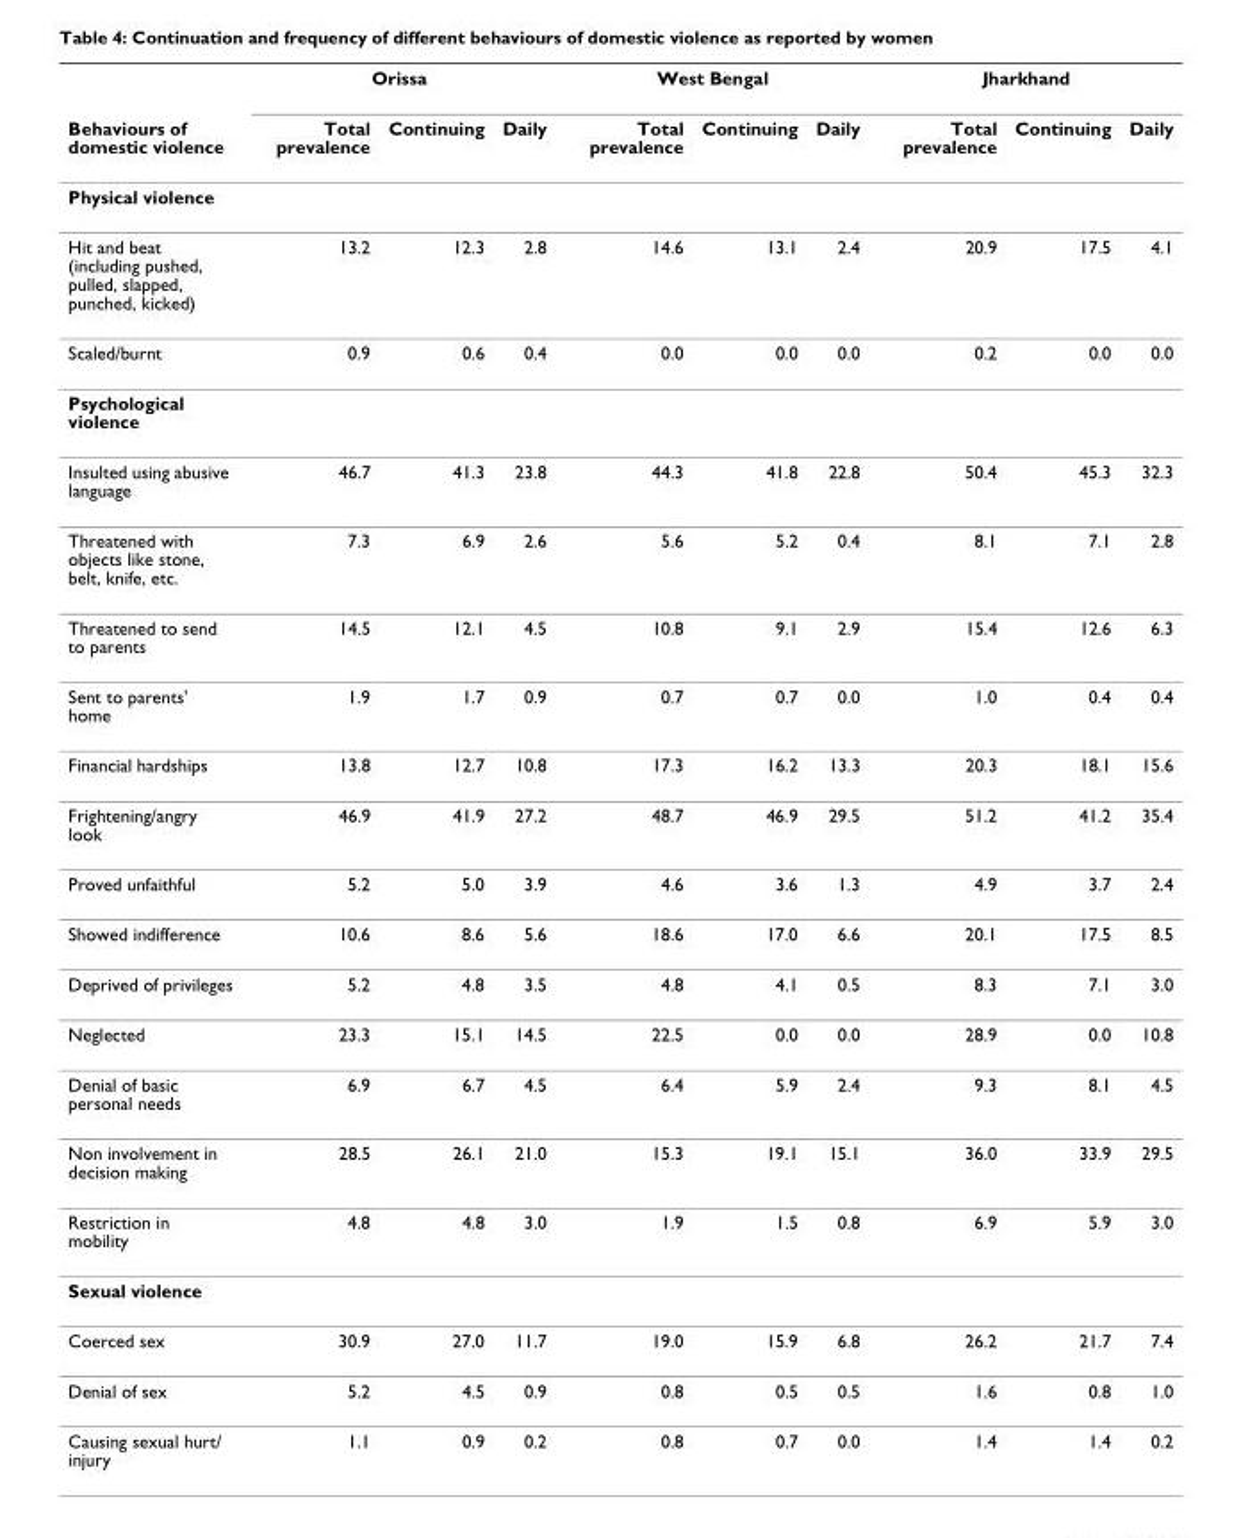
<table><thead><tr><td rowspan="2">Behaviours of domestic violence</td><td colspan="3">Orissa</td><td colspan="3">West Bengal</td><td colspan="3">Jharkhand</td></tr><tr><td>Total prevalence</td><td>Continuing</td><td>Daily</td><td>Total prevalence</td><td>Continuing</td><td>Daily</td><td>Total prevalence</td><td>Continuing</td><td>Daily</td></tr></thead><tbody><tr><td colspan="10">Physical violence</td></tr><tr><td>Hit and beat (including pushed, pulled, slapped, punched, kicked)</td><td>13.2</td><td>12.3</td><td>2.8</td><td>14.6</td><td>13.1</td><td>2.4</td><td>20.9</td><td>17.5</td><td>4.1</td></tr><tr><td>Scaled/burnt</td><td>0.9</td><td>0.6</td><td>0.4</td><td>0.0</td><td>0.0</td><td>0.0</td><td>0.2</td><td>0.0</td><td>0.0</td></tr><tr><td colspan="10">Psychological violence</td></tr><tr><td>Insulted using abusive language</td><td>46.7</td><td>41.3</td><td>23.8</td><td>44.3</td><td>41.8</td><td>22.8</td><td>50.4</td><td>45.3</td><td>32.3</td></tr><tr><td>Threatened with objects like stone, belt, knife, etc.</td><td>7.3</td><td>6.9</td><td>2.6</td><td>5.6</td><td>5.2</td><td>0.4</td><td>8.1</td><td>7.1</td><td>2.8</td></tr><tr><td>Threatened to send to parents</td><td>14.5</td><td>12.1</td><td>4.5</td><td>10.8</td><td>9.1</td><td>2.9</td><td>15.4</td><td>12.6</td><td>6.3</td></tr><tr><td>Sent to parents&#x27; home</td><td>1.9</td><td>1.7</td><td>0.9</td><td>0.7</td><td>0.7</td><td>0.0</td><td>1.0</td><td>0.4</td><td>0.4</td></tr><tr><td>Financial hardships</td><td>13.8</td><td>12.7</td><td>10.8</td><td>17.3</td><td>16.2</td><td>13.3</td><td>20.3</td><td>18.1</td><td>15.6</td></tr><tr><td>Frightening/angry look</td><td>46.9</td><td>41.9</td><td>27.2</td><td>48.7</td><td>46.9</td><td>29.5</td><td>51.2</td><td>41.2</td><td>35.4</td></tr><tr><td>Proved unfaithful</td><td>5.2</td><td>5.0</td><td>3.9</td><td>4.6</td><td>3.6</td><td>1.3</td><td>4.9</td><td>3.7</td><td>2.4</td></tr><tr><td>Showed indifference</td><td>10.6</td><td>8.6</td><td>5.6</td><td>18.6</td><td>17.0</td><td>6.6</td><td>20.1</td><td>17.5</td><td>8.5</td></tr><tr><td>Deprived of privileges</td><td>5.2</td><td>4.8</td><td>3.5</td><td>4.8</td><td>4.1</td><td>0.5</td><td>8.3</td><td>7.1</td><td>3.0</td></tr><tr><td>Neglected</td><td>23.3</td><td>15.1</td><td>14.5</td><td>22.5</td><td>0.0</td><td>0.0</td><td>28.9</td><td>0.0</td><td>10.8</td></tr><tr><td>Denial of basic personal needs</td><td>6.9</td><td>6.7</td><td>4.5</td><td>6.4</td><td>5.9</td><td>2.4</td><td>9.3</td><td>8.1</td><td>4.5</td></tr><tr><td>Non involvement in decision making</td><td>28.5</td><td>26.1</td><td>21.0</td><td>15.3</td><td>19.1</td><td>15.1</td><td>36.0</td><td>33.9</td><td>29.5</td></tr><tr><td>Restriction in mobility</td><td>4.8</td><td>4.8</td><td>3.0</td><td>1.9</td><td>1.5</td><td>0.8</td><td>6.9</td><td>5.9</td><td>3.0</td></tr><tr><td colspan="10">Sexual violence</td></tr><tr><td>Coerced sex</td><td>30.9</td><td>27.0</td><td>11.7</td><td>19.0</td><td>15.9</td><td>6.8</td><td>26.2</td><td>21.7</td><td>7.4</td></tr><tr><td>Denial of sex</td><td>5.2</td><td>4.5</td><td>0.9</td><td>0.8</td><td>0.5</td><td>0.5</td><td>1.6</td><td>0.8</td><td>1.0</td></tr><tr><td>Causing sexual hurt/ injury</td><td>1.1</td><td>0.9</td><td>0.2</td><td>0.8</td><td>0.7</td><td>0.0</td><td>1.4</td><td>1.4</td><td>0.2</td></tr></tbody></table>